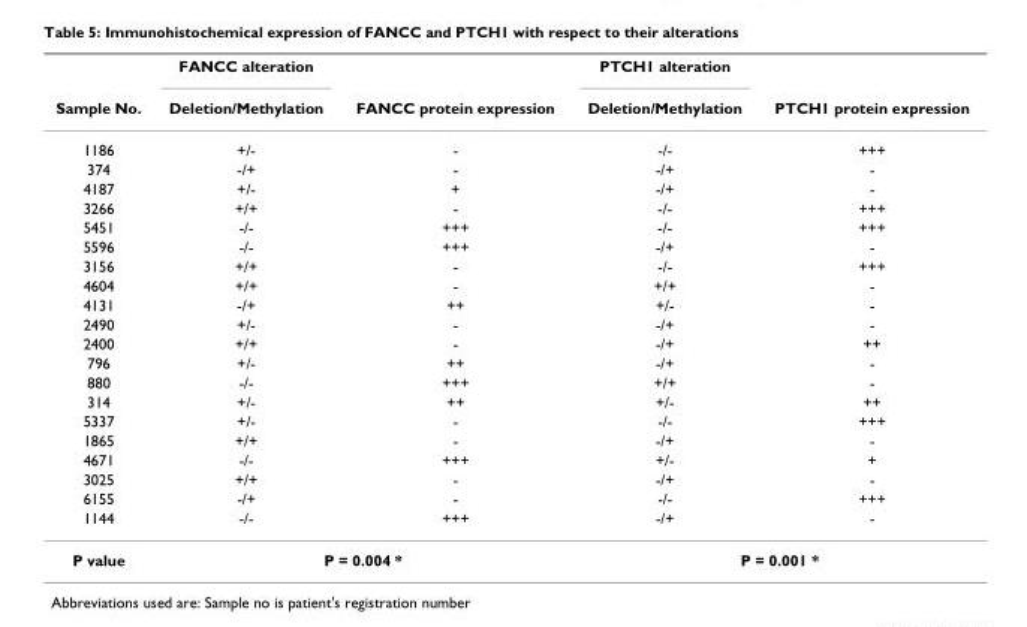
<table><thead><tr><td rowspan="2">Sample No.</td><td rowspan="2">FANCC alteration Deletion/Methylation</td><td rowspan="2">FANCC protein expression</td><td rowspan="2">PTCH1 alteration Deletion/Methylation</td><td rowspan="2">PTCH1 protein expression</td></tr><tr></tr></thead><tbody><tr><td>1186</td><td>+/-</td><td>-</td><td>-/-</td><td>+++</td></tr><tr><td>374</td><td>-/+</td><td>-</td><td>-/+</td><td>-</td></tr><tr><td>4187</td><td>+/-</td><td>+</td><td>-/+</td><td>-</td></tr><tr><td>3266</td><td>+/+</td><td>-</td><td>-/-</td><td>+++</td></tr><tr><td>5451</td><td>-/-</td><td>+++</td><td>-/-</td><td>+++</td></tr><tr><td>5596</td><td>-/-</td><td>+++</td><td>-/+</td><td>-</td></tr><tr><td>3156</td><td>+/+</td><td>-</td><td>-/-</td><td>+++</td></tr><tr><td>4604</td><td>+/+</td><td>-</td><td>+/+</td><td>-</td></tr><tr><td>4131</td><td>-/+</td><td>++</td><td>+/-</td><td>-</td></tr><tr><td>2490</td><td>+/-</td><td>-</td><td>-/+</td><td>-</td></tr><tr><td>2400</td><td>+/+</td><td>-</td><td>-/+</td><td>++</td></tr><tr><td>796</td><td>+/-</td><td>++</td><td>-/+</td><td>-</td></tr><tr><td>880</td><td>-/-</td><td>+++</td><td>+/+</td><td>-</td></tr><tr><td>314</td><td>+/-</td><td>++</td><td>+/-</td><td>++</td></tr><tr><td>5337</td><td>+/-</td><td>-</td><td>-/-</td><td>+++</td></tr><tr><td>1865</td><td>+/+</td><td>-</td><td>-/+</td><td>-</td></tr><tr><td>4671</td><td>-/-</td><td>+++</td><td>+/-</td><td>+</td></tr><tr><td>3025</td><td>+/+</td><td>-</td><td>-/+</td><td>-</td></tr><tr><td>6155</td><td>-/+</td><td>-</td><td>-/-</td><td>+++</td></tr><tr><td>1144</td><td>-/-</td><td>+++</td><td>-/+</td><td>-</td></tr><tr><td>P value</td><td colspan="2">P = 0.004 *</td><td colspan="2">P = 0.001 *</td></tr></tbody></table>